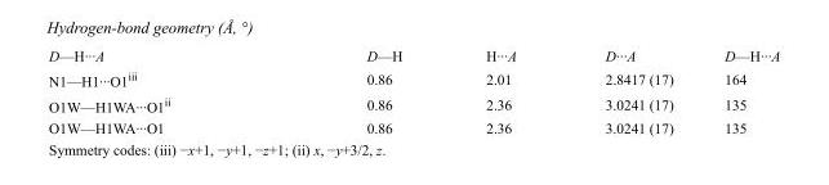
<table><tbody><tr><td>D—H···A</td><td>D—H</td><td>H···A</td><td>D···A</td><td>D—H···A</td></tr><tr><td>N1—H1···O1<sup>iii</sup></td><td>0.86</td><td>2.01</td><td>2.8417 (17)</td><td>164</td></tr><tr><td>O1W—H1WA···O1<sup>ii</sup></td><td>0.86</td><td>2.36</td><td>3.0241 (17)</td><td>135</td></tr><tr><td>O1W—H1WA···O1</td><td>0.86</td><td>2.36</td><td>3.0241 (17)</td><td>135</td></tr></tbody></table>